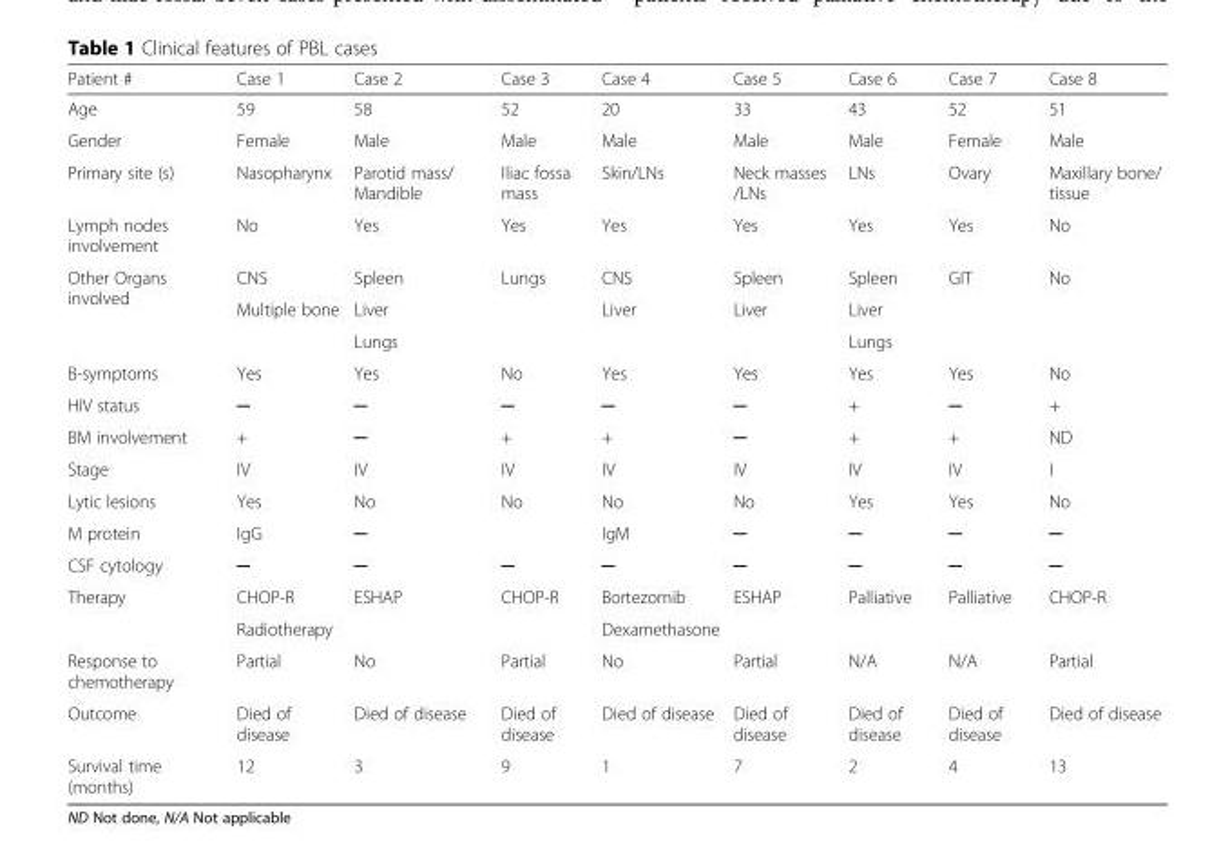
<table><thead><tr><td>Patient #</td><td>Case 1</td><td>Case 2</td><td>Case 3</td><td>Case 4</td><td>Case 5</td><td>Case 6</td><td>Case 7</td><td>Case 8</td></tr></thead><tbody><tr><td>Age</td><td>59</td><td>58</td><td>52</td><td>20</td><td>33</td><td>43</td><td>52</td><td>51</td></tr><tr><td>Gender</td><td>Female</td><td>Male</td><td>Male</td><td>Male</td><td>Male</td><td>Male</td><td>Female</td><td>Male</td></tr><tr><td>Primary site (s)</td><td>Nasopharynx</td><td>Parotid mass/ Mandible</td><td>Iliac fossa mass</td><td>Skin/LNs</td><td>Neck masses /LNs</td><td>LNs</td><td>Ovary</td><td>Maxillary bone/ tissue</td></tr><tr><td>Lymph nodes involvement</td><td>No</td><td>Yes</td><td>Yes</td><td>Yes</td><td>Yes</td><td>Yes</td><td>Yes</td><td>No</td></tr><tr><td rowspan="3">Other Organs involved</td><td>CNS</td><td>Spleen</td><td rowspan="3">Lungs</td><td>CNS</td><td>Spleen</td><td>Spleen</td><td rowspan="3">GIT</td><td rowspan="3">No</td></tr><tr><td rowspan="2">Multiple bone</td><td>Liver</td><td rowspan="2">Liver</td><td rowspan="2">Liver</td><td>Liver</td></tr><tr><td>Lungs</td><td>Lungs</td></tr><tr><td>B-symptoms</td><td>Yes</td><td>Yes</td><td>No</td><td>Yes</td><td>Yes</td><td>Yes</td><td>Yes</td><td>No</td></tr><tr><td>HIV status</td><td>─</td><td>─</td><td>─</td><td>─</td><td>─</td><td>+</td><td>─</td><td>+</td></tr><tr><td>BM involvement</td><td>+</td><td>─</td><td>+</td><td>+</td><td>─</td><td>+</td><td>+</td><td>ND</td></tr><tr><td>Stage</td><td>IV</td><td>IV</td><td>IV</td><td>IV</td><td>IV</td><td>IV</td><td>IV</td><td>I</td></tr><tr><td>Lytic lesions</td><td>Yes</td><td>No</td><td>No</td><td>No</td><td>No</td><td>Yes</td><td>Yes</td><td>No</td></tr><tr><td>M protein</td><td>IgG</td><td>─</td><td></td><td>IgM</td><td>─</td><td>─</td><td>─</td><td>─</td></tr><tr><td>CSF cytology</td><td>─</td><td>─</td><td>─</td><td>─</td><td>─</td><td>─</td><td>─</td><td>─</td></tr><tr><td rowspan="2">Therapy</td><td>CHOP-R</td><td rowspan="2">ESHAP</td><td rowspan="2">CHOP-R</td><td>Bortezomib</td><td rowspan="2">ESHAP</td><td rowspan="2">Palliative</td><td rowspan="2">Palliative</td><td rowspan="2">CHOP-R</td></tr><tr><td>Radiotherapy</td><td>Dexamethasone</td></tr><tr><td>Response to chemotherapy</td><td>Partial</td><td>No</td><td>Partial</td><td>No</td><td>Partial</td><td>N/A</td><td>N/A</td><td>Partial</td></tr><tr><td>Outcome</td><td>Died of disease</td><td>Died of disease</td><td>Died of disease</td><td>Died of disease</td><td>Died of disease</td><td>Died of disease</td><td>Died of disease</td><td>Died of disease</td></tr><tr><td>Survival time (months)</td><td>12</td><td>3</td><td>9</td><td>1</td><td>7</td><td>2</td><td>4</td><td>13</td></tr></tbody></table>